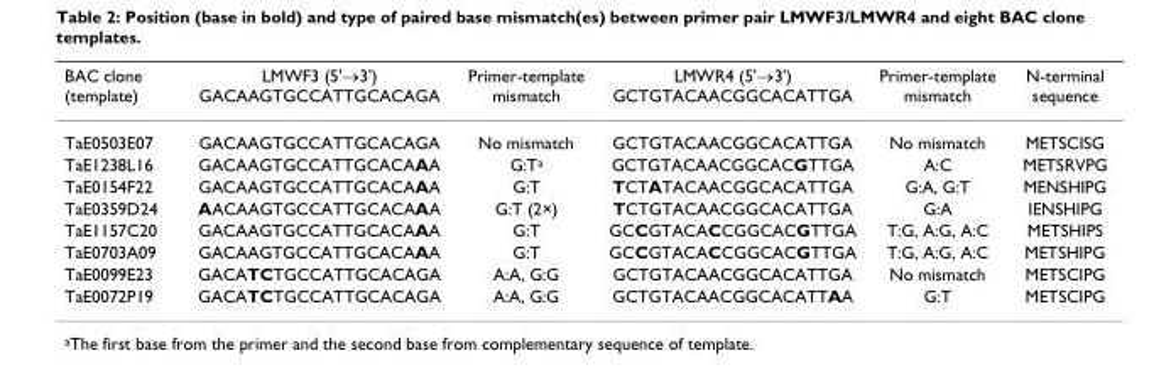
<table><thead><tr><td>BAC clone (template)</td><td>LMWF3 (5&#x27;→3&#x27;) GACAAGTGCCATTGCACAGA</td><td>Primer-template mismatch</td><td>LMWR4 (5&#x27;→3&#x27;) GCTGTACAACGGCACATTGA</td><td>Primer-template mismatch</td><td>N-terminal sequence</td></tr></thead><tbody><tr><td>TaE0503E07</td><td>GACAAGTGCCATTGCACAGA</td><td>No mismatch</td><td>GCTGTACAACGGCACATTGA</td><td>No mismatch</td><td>METSCISG</td></tr><tr><td>TaE1238L16</td><td>GACAAGTGCCATTGCACAAA</td><td>G:T<sup>a</sup></td><td>GCTGTACAACGGCACGTTGA</td><td>A:C</td><td>METSRVPG</td></tr><tr><td>TaE0154F22</td><td>GACAAGTGCCATTGCACAAA</td><td>G:T</td><td>TCTATACAACGGCACATTGA</td><td>G:A, G:T</td><td>MENSHIPG</td></tr><tr><td>TaE0359D24</td><td>AACAAGTGCCATTGCACAAA</td><td>G:T (2×)</td><td>TCTGTACAACGGCACATTGA</td><td>G:A</td><td>IENSHIPG</td></tr><tr><td>TaE1157C20</td><td>GACAAGTGCCATTGCACAAA</td><td>G:T</td><td>GCCGTACACCGGCACGTTGA</td><td>T:G, A:G, A:C</td><td>METSHIPS</td></tr><tr><td>TaE0703A09</td><td>GACAAGTGCCATTGCACAAA</td><td>G:T</td><td>GCCGTACACCGGCACGTTGA</td><td>T:G, A:G, A:C</td><td>METSHIPG</td></tr><tr><td>TaE0099E23</td><td>GACATCTGCCATTGCACAGA</td><td>A:A, G:G</td><td>GCTGTACAACGGCACATTGA</td><td>No mismatch</td><td>METSCIPG</td></tr><tr><td>TaE0072P19</td><td>GACATCTGCCATTGCACAGA</td><td>A:A, G:G</td><td>GCTGTACAACGGCACATTAA</td><td>G:T</td><td>METSCIPG</td></tr></tbody></table>